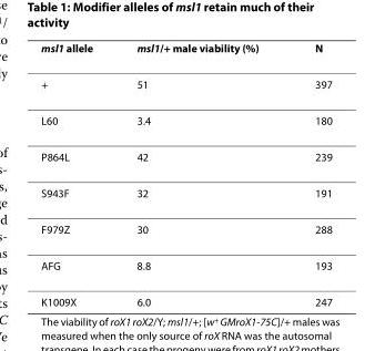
<table><thead><tr><td>msl1 allele</td><td>msl1/+ male viability (%)</td><td>N</td></tr></thead><tbody><tr><td>+</td><td>51</td><td>397</td></tr><tr><td>L60</td><td>3.4</td><td>180</td></tr><tr><td>P864L</td><td>42</td><td>239</td></tr><tr><td>S943F</td><td>32</td><td>191</td></tr><tr><td>F979Z</td><td>30</td><td>288</td></tr><tr><td>AFG</td><td>8.8</td><td>193</td></tr><tr><td>K1009X</td><td>6.0</td><td>247</td></tr></tbody></table>